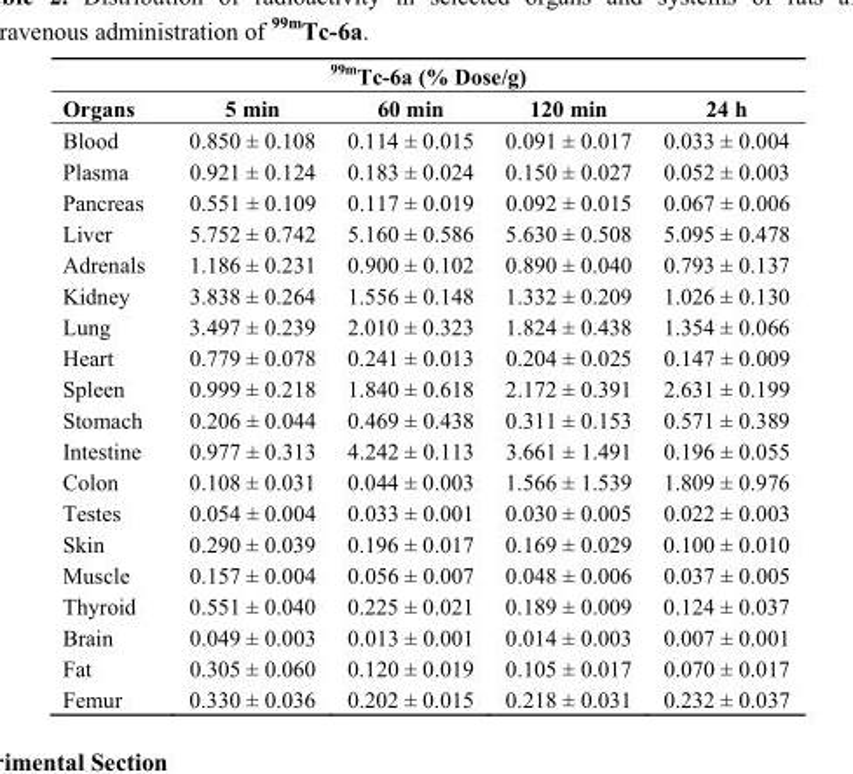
<table><thead><tr><td colspan="5"><sup>99m</sup>Tc-6a (% Dose/g)</td></tr><tr><td>Organs</td><td>5 min</td><td>60 min</td><td>120 min</td><td>24 h</td></tr></thead><tbody><tr><td>Blood</td><td>0.850 ± 0.108</td><td>0.114 ± 0.015</td><td>0.091 ± 0.017</td><td>0.033 ± 0.004</td></tr><tr><td>Plasma</td><td>0.921 ± 0.124</td><td>0.183 ± 0.024</td><td>0.150 ± 0.027</td><td>0.052 ± 0.003</td></tr><tr><td>Pancreas</td><td>0.551 ± 0.109</td><td>0.117 ± 0.019</td><td>0.092 ± 0.015</td><td>0.067 ± 0.006</td></tr><tr><td>Liver</td><td>5.752 ± 0.742</td><td>5.160 ± 0.586</td><td>5.630 ± 0.508</td><td>5.095 ± 0.478</td></tr><tr><td>Adrenals</td><td>1.186 ± 0.231</td><td>0.900 ± 0.102</td><td>0.890 ± 0.040</td><td>0.793 ± 0.137</td></tr><tr><td>Kidney</td><td>3.838 ± 0.264</td><td>1.556 ± 0.148</td><td>1.332 ± 0.209</td><td>1.026 ± 0.130</td></tr><tr><td>Lung</td><td>3.497 ± 0.239</td><td>2.010 ± 0.323</td><td>1.824 ± 0.438</td><td>1.354 ± 0.066</td></tr><tr><td>Heart</td><td>0.779 ± 0.078</td><td>0.241 ± 0.013</td><td>0.204 ± 0.025</td><td>0.147 ± 0.009</td></tr><tr><td>Spleen</td><td>0.999 ± 0.218</td><td>1.840 ± 0.618</td><td>2.172 ± 0.391</td><td>2.631 ± 0.199</td></tr><tr><td>Stomach</td><td>0.206 ± 0.044</td><td>0.469 ± 0.438</td><td>0.311 ± 0.153</td><td>0.571 ± 0.389</td></tr><tr><td>Intestine</td><td>0.977 ± 0.313</td><td>4.242 ± 0.113</td><td>3.661 ± 1.491</td><td>0.196 ± 0.055</td></tr><tr><td>Colon</td><td>0.108 ± 0.031</td><td>0.044 ± 0.003</td><td>1.566 ± 1.539</td><td>1.809 ± 0.976</td></tr><tr><td>Testes</td><td>0.054 ± 0.004</td><td>0.033 ± 0.001</td><td>0.030 ± 0.005</td><td>0.022 ± 0.003</td></tr><tr><td>Skin</td><td>0.290 ± 0.039</td><td>0.196 ± 0.017</td><td>0.169 ± 0.029</td><td>0.100 ± 0.010</td></tr><tr><td>Muscle</td><td>0.157 ± 0.004</td><td>0.056 ± 0.007</td><td>0.048 ± 0.006</td><td>0.037 ± 0.005</td></tr><tr><td>Thyroid</td><td>0.551 ± 0.040</td><td>0.225 ± 0.021</td><td>0.189 ± 0.009</td><td>0.124 ± 0.037</td></tr><tr><td>Brain</td><td>0.049 ± 0.003</td><td>0.013 ± 0.001</td><td>0.014 ± 0.003</td><td>0.007 ± 0.001</td></tr><tr><td>Fat</td><td>0.305 ± 0.060</td><td>0.120 ± 0.019</td><td>0.105 ± 0.017</td><td>0.070 ± 0.017</td></tr><tr><td>Femur</td><td>0.330 ± 0.036</td><td>0.202 ± 0.015</td><td>0.218 ± 0.031</td><td>0.232 ± 0.037</td></tr></tbody></table>